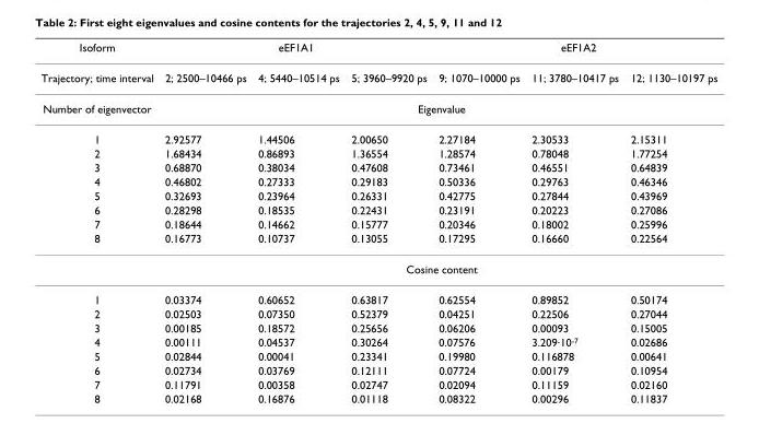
<table><thead><tr><td rowspan="2">Isoform Trajectory; time interval</td><td colspan="3">eEF1A1</td><td colspan="3">eEF1A2</td></tr><tr><td>2; 2500–10466 ps</td><td>4; 5440–10514 ps</td><td>5; 3960–9920 ps</td><td>9; 1070–10000 ps</td><td>11; 3780–10417 ps</td><td>12; 1130–10197 ps</td></tr></thead><tbody><tr><td>Number of eigenvector</td><td colspan="6">Eigenvalue</td></tr><tr><td>1</td><td>2.92577</td><td>1.44506</td><td>2.00650</td><td>2.27184</td><td>2.30533</td><td>2.15311</td></tr><tr><td>2</td><td>1.68434</td><td>0.86893</td><td>1.36554</td><td>1.28574</td><td>0.78048</td><td>1.77254</td></tr><tr><td>3</td><td>0.68870</td><td>0.38034</td><td>0.47608</td><td>0.73461</td><td>0.46551</td><td>0.64839</td></tr><tr><td>4</td><td>0.46802</td><td>0.27333</td><td>0.29183</td><td>0.50336</td><td>0.29763</td><td>0.46346</td></tr><tr><td>5</td><td>0.32693</td><td>0.23964</td><td>0.26331</td><td>0.42775</td><td>0.27844</td><td>0.43969</td></tr><tr><td>6</td><td>0.28298</td><td>0.18535</td><td>0.22431</td><td>0.23191</td><td>0.20223</td><td>0.27086</td></tr><tr><td>7</td><td>0.18644</td><td>0.14662</td><td>0.15777</td><td>0.20346</td><td>0.18002</td><td>0.25996</td></tr><tr><td rowspan="2">8</td><td>0.16773</td><td>0.10737</td><td>0.13055</td><td>0.17295</td><td>0.16660</td><td>0.22564</td></tr><tr><td colspan="6">Cosine content</td></tr><tr><td>1</td><td>0.03374</td><td>0.60652</td><td>0.63817</td><td>0.62554</td><td>0.89852</td><td>0.50174</td></tr><tr><td>2</td><td>0.02503</td><td>0.07350</td><td>0.52379</td><td>0.04251</td><td>0.22506</td><td>0.27044</td></tr><tr><td>3</td><td>0.00185</td><td>0.18572</td><td>0.25656</td><td>0.06206</td><td>0.00093</td><td>0.15005</td></tr><tr><td>4</td><td>0.00111</td><td>0.04537</td><td>0.30264</td><td>0.07576</td><td>3.209·10<sup>-7</sup></td><td>0.02686</td></tr><tr><td>5</td><td>0.02844</td><td>0.00041</td><td>0.23341</td><td>0.19980</td><td>0.116878</td><td>0.00641</td></tr><tr><td>6</td><td>0.02734</td><td>0.03769</td><td>0.12111</td><td>0.07724</td><td>0.00179</td><td>0.10954</td></tr><tr><td>7</td><td>0.11791</td><td>0.00358</td><td>0.02747</td><td>0.02094</td><td>0.11159</td><td>0.02160</td></tr><tr><td>8</td><td>0.02168</td><td>0.16876</td><td>0.01118</td><td>0.08322</td><td>0.00296</td><td>0.11837</td></tr></tbody></table>